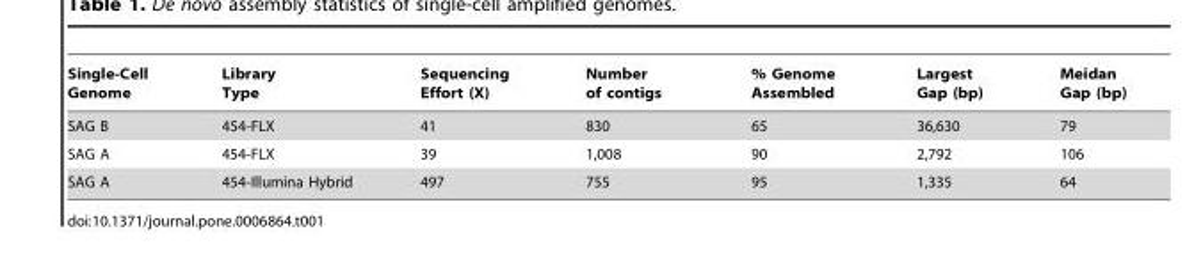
<table><thead><tr><td>Single-Cell Genome</td><td>Library Type</td><td>Sequencing Effort (X)</td><td>Number of contigs</td><td>% Genome Assembled</td><td>Largest Gap (bp)</td><td>Meidan Gap (bp)</td></tr></thead><tbody><tr><td>SAG B</td><td>454-FLX</td><td>41</td><td>830</td><td>65</td><td>36,630</td><td>79</td></tr><tr><td>SAG A</td><td>454-FLX</td><td>39</td><td>1,008</td><td>90</td><td>2,792</td><td>106</td></tr><tr><td>SAG A</td><td>454-Illumina Hybrid</td><td>497</td><td>755</td><td>95</td><td>1,335</td><td>64</td></tr></tbody></table>